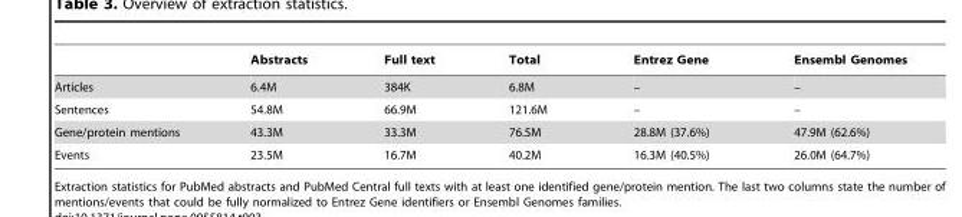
<table><thead><tr><td></td><td>Abstracts</td><td>Full text</td><td>Total</td><td>Entrez Gene</td><td>Ensembl Genomes</td></tr></thead><tbody><tr><td>Articles</td><td>6.4M</td><td>384K</td><td>6.8M</td><td>–</td><td>–</td></tr><tr><td>Sentences</td><td>54.8M</td><td>66.9M</td><td>121.6M</td><td>–</td><td>–</td></tr><tr><td>Gene/protein mentions</td><td>43.3M</td><td>33.3M</td><td>76.5M</td><td>28.8M (37.6%)</td><td>47.9M (62.6%)</td></tr><tr><td>Events</td><td>23.5M</td><td>16.7M</td><td>40.2M</td><td>16.3M (40.5%)</td><td>26.0M (64.7%)</td></tr></tbody></table>